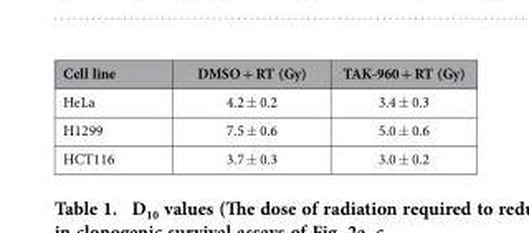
<table><thead><tr><td>Cell line</td><td>DMSO + RT (Gy)</td><td>TAK-960 + RT (Gy)</td></tr></thead><tbody><tr><td>HeLa</td><td>4.2 ± 0.2</td><td>3.4 ± 0.3</td></tr><tr><td>H1299</td><td>7.5 ± 0.6</td><td>5.0 ± 0.6</td></tr><tr><td>HCT116</td><td>3.7 ± 0.3</td><td>3.0 ± 0.2</td></tr></tbody></table>